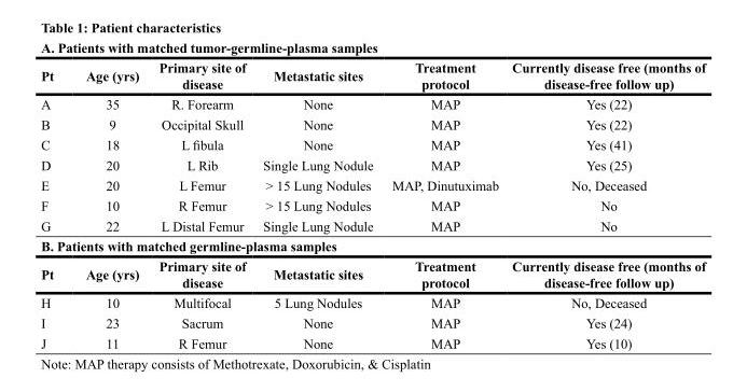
<table><tbody><tr><td colspan="6">A. Patients with matched tumor-germline-plasma samples</td></tr><tr><td>Pt</td><td>Age (yrs)</td><td>Primary site of disease</td><td>Metastatic sites</td><td>Treatment protocol</td><td>Currently disease free (months of disease-free follow up)</td></tr><tr><td>A</td><td>35</td><td>R. Forearm</td><td>None</td><td>MAP</td><td>Yes (22)</td></tr><tr><td>B</td><td>9</td><td>Occipital Skull</td><td>None</td><td>MAP</td><td>Yes (22)</td></tr><tr><td>C</td><td>18</td><td>L fibula</td><td>None</td><td>MAP</td><td>Yes (41)</td></tr><tr><td>D</td><td>20</td><td>L Rib</td><td>Single Lung Nodule</td><td>MAP</td><td>Yes (25)</td></tr><tr><td>E</td><td>20</td><td>L Femur</td><td>&gt; 15 Lung Nodules</td><td>MAP, Dinutuximab</td><td>No, Deceased</td></tr><tr><td>F</td><td>10</td><td>R Femur</td><td>&gt; 15 Lung Nodules</td><td>MAP</td><td>No</td></tr><tr><td>G</td><td>22</td><td>L Distal Femur</td><td>Single Lung Nodule</td><td>MAP</td><td>No</td></tr><tr><td colspan="6">B. Patients with matched germline-plasma samples</td></tr><tr><td>Pt</td><td>Age (yrs)</td><td>Primary site of disease</td><td>Metastatic sites</td><td>Treatment protocol</td><td>Currently disease free (months of disease-free follow up)</td></tr><tr><td>H</td><td>10</td><td>Multifocal</td><td>5 Lung Nodules</td><td>MAP</td><td>No, Deceased</td></tr><tr><td>I</td><td>23</td><td>Sacrum</td><td>None</td><td>MAP</td><td>Yes (24)</td></tr><tr><td>J</td><td>11</td><td>R Femur</td><td>None</td><td>MAP</td><td>Yes (10)</td></tr></tbody></table>